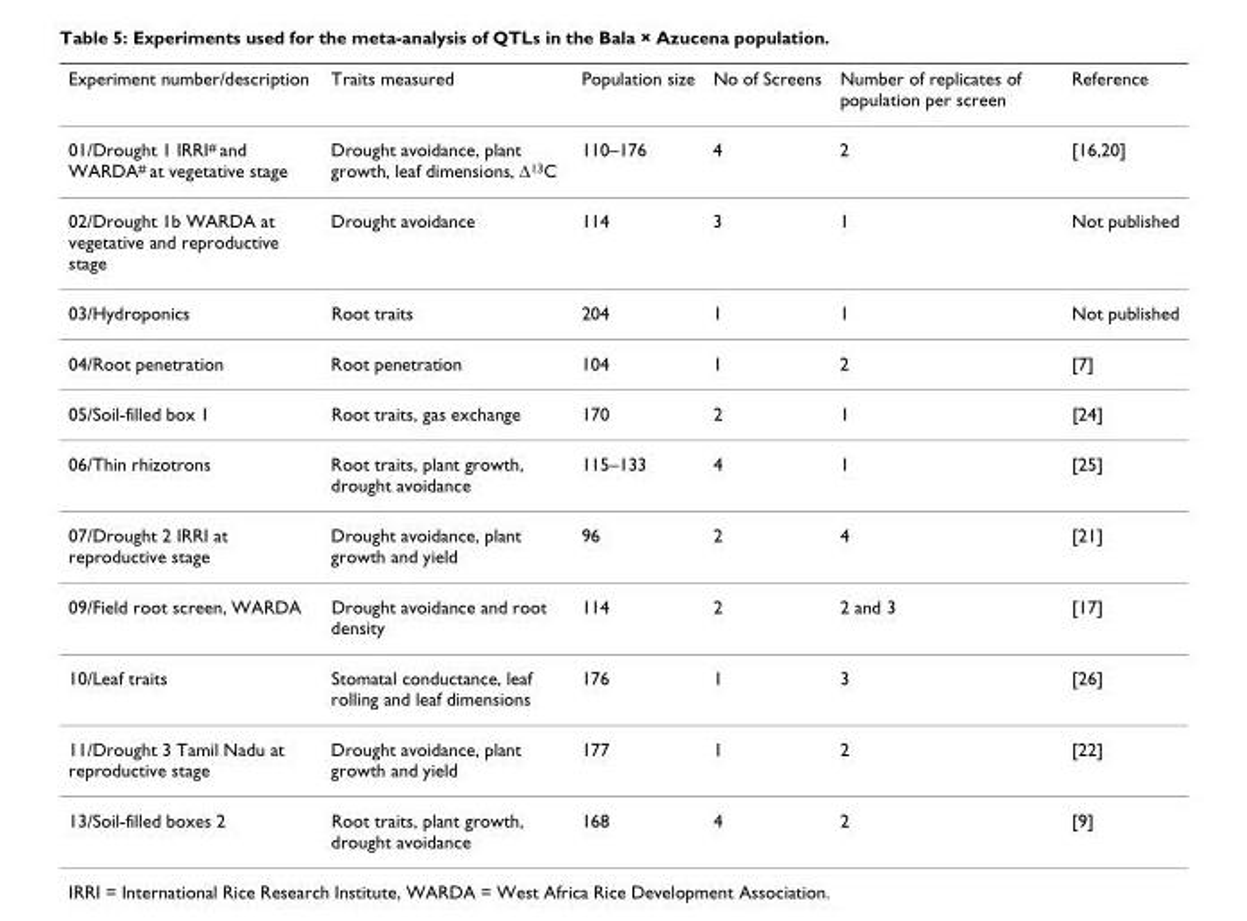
<table><thead><tr><td>Experiment number/description</td><td>Traits measured</td><td>Population size</td><td>No of Screens</td><td>Number of replicates of population per screen</td><td>Reference</td></tr></thead><tbody><tr><td>01/Drought 1 IRRI<sup>#</sup> and WARDA<sup>#</sup> at vegetative stage</td><td>Drought avoidance, plant growth, leaf dimensions, Δ<sup>13</sup>C</td><td>110–176</td><td>4</td><td>2</td><td>[16,20]</td></tr><tr><td>02/Drought 1b WARDA at vegetative and reproductive stage</td><td>Drought avoidance</td><td>114</td><td>3</td><td>1</td><td>Not published</td></tr><tr><td>03/Hydroponics</td><td>Root traits</td><td>204</td><td>1</td><td>1</td><td>Not published</td></tr><tr><td>04/Root penetration</td><td>Root penetration</td><td>104</td><td>1</td><td>2</td><td>[7]</td></tr><tr><td>05/Soil-filled box 1</td><td>Root traits, gas exchange</td><td>170</td><td>2</td><td>1</td><td>[24]</td></tr><tr><td>06/Thin rhizotrons</td><td>Root traits, plant growth, drought avoidance</td><td>115–133</td><td>4</td><td>1</td><td>[25]</td></tr><tr><td>07/Drought 2 IRRI at reproductive stage</td><td>Drought avoidance, plant growth and yield</td><td>96</td><td>2</td><td>4</td><td>[21]</td></tr><tr><td>09/Field root screen, WARDA</td><td>Drought avoidance and root density</td><td>114</td><td>2</td><td>2 and 3</td><td>[17]</td></tr><tr><td>10/Leaf traits</td><td>Stomatal conductance, leaf rolling and leaf dimensions</td><td>176</td><td>1</td><td>3</td><td>[26]</td></tr><tr><td>11/Drought 3 Tamil Nadu at reproductive stage</td><td>Drought avoidance, plant growth and yield</td><td>177</td><td>1</td><td>2</td><td>[22]</td></tr><tr><td>13/Soil-filled boxes 2</td><td>Root traits, plant growth, drought avoidance</td><td>168</td><td>4</td><td>2</td><td>[9]</td></tr></tbody></table>